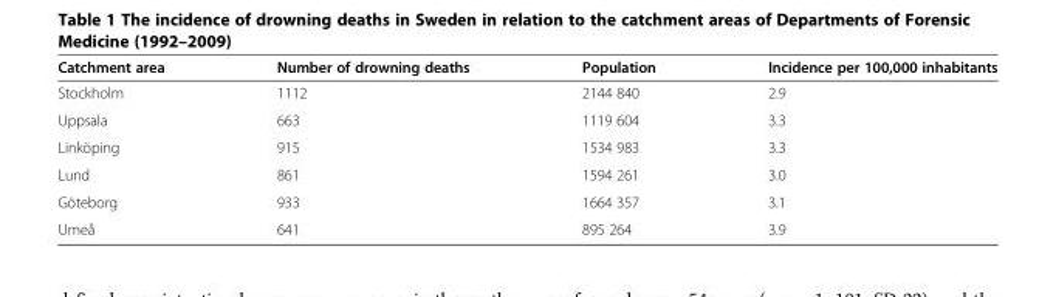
<table><thead><tr><td>Catchment area</td><td>Number of drowning deaths</td><td>Population</td><td>Incidence per 100,000 inhabitants</td></tr></thead><tbody><tr><td>Stockholm</td><td>1112</td><td>2144 840</td><td>2.9</td></tr><tr><td>Uppsala</td><td>663</td><td>1119 604</td><td>3.3</td></tr><tr><td>Linköping</td><td>915</td><td>1534 983</td><td>3.3</td></tr><tr><td>Lund</td><td>861</td><td>1594 261</td><td>3.0</td></tr><tr><td>Göteborg</td><td>933</td><td>1664 357</td><td>3.1</td></tr><tr><td>Umeå</td><td>641</td><td>895 264</td><td>3.9</td></tr></tbody></table>